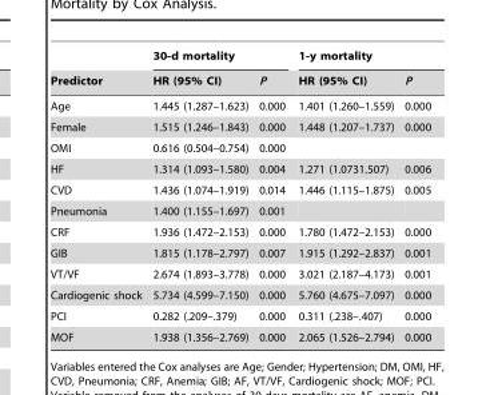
<table><thead><tr><td rowspan="2">Predictor</td><td colspan="2">30-d mortality</td><td colspan="2">1-y mortality</td></tr><tr><td>HR (95% CI)</td><td>P</td><td>HR (95% CI)</td><td>P</td></tr></thead><tbody><tr><td>Age</td><td>1.445 (1.287–1.623)</td><td>0.000</td><td>1.401 (1.260–1.559)</td><td>0.000</td></tr><tr><td>Female</td><td>1.515 (1.246–1.843)</td><td>0.000</td><td>1.448 (1.207–1.737)</td><td>0.000</td></tr><tr><td>OMI</td><td>0.616 (0.504–0.754)</td><td>0.000</td><td></td><td></td></tr><tr><td>HF</td><td>1.314 (1.093–1.580)</td><td>0.004</td><td>1.271 (1.0731.507)</td><td>0.006</td></tr><tr><td>CVD</td><td>1.436 (1.074–1.919)</td><td>0.014</td><td>1.446 (1.115–1.875)</td><td>0.005</td></tr><tr><td>Pneumonia</td><td>1.400 (1.155–1.697)</td><td>0.001</td><td></td><td></td></tr><tr><td>CRF</td><td>1.936 (1.472–2.153)</td><td>0.000</td><td>1.780 (1.472–2.153)</td><td>0.000</td></tr><tr><td>GIB</td><td>1.815 (1.178–2.797)</td><td>0.007</td><td>1.915 (1.292–2.837)</td><td>0.001</td></tr><tr><td>VT/VF</td><td>2.674 (1.893–3.778)</td><td>0.000</td><td>3.021 (2.187–4.173)</td><td>0.001</td></tr><tr><td>Cardiogenic shock</td><td>5.734 (4.599–7.150)</td><td>0.000</td><td>5.760 (4.675–7.097)</td><td>0.000</td></tr><tr><td>PCI</td><td>0.282 (.209–.379)</td><td>0.000</td><td>0.311 (.238–.407)</td><td>0.000</td></tr><tr><td>MOF</td><td>1.938 (1.356–2.769)</td><td>0.000</td><td>2.065 (1.526–2.794)</td><td>0.000</td></tr></tbody></table>